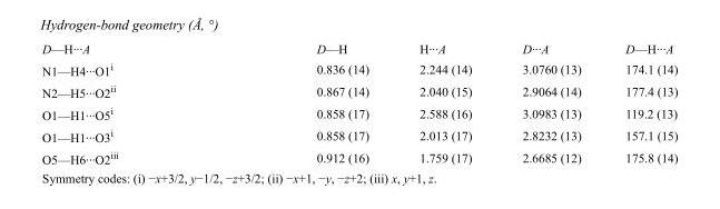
<table><tbody><tr><td>D—H···A</td><td>D—H</td><td>H···A</td><td>D···A</td><td>D—H···A</td></tr><tr><td>N1—H4···O1<sup>i</sup></td><td>0.836 (14)</td><td>2.244 (14)</td><td>3.0760 (13)</td><td>174.1 (14)</td></tr><tr><td>N2—H5···O2<sup>ii</sup></td><td>0.867 (14)</td><td>2.040 (15)</td><td>2.9064 (14)</td><td>177.4 (13)</td></tr><tr><td>O1—H1···O5<sup>i</sup></td><td>0.858 (17)</td><td>2.588 (16)</td><td>3.0983 (13)</td><td>119.2 (13)</td></tr><tr><td>O1—H1···O3<sup>i</sup></td><td>0.858 (17)</td><td>2.013 (17)</td><td>2.8232 (13)</td><td>157.1 (15)</td></tr><tr><td>O5—H6···O2<sup>iii</sup></td><td>0.912 (16)</td><td>1.759 (17)</td><td>2.6685 (12)</td><td>175.8 (14)</td></tr></tbody></table>